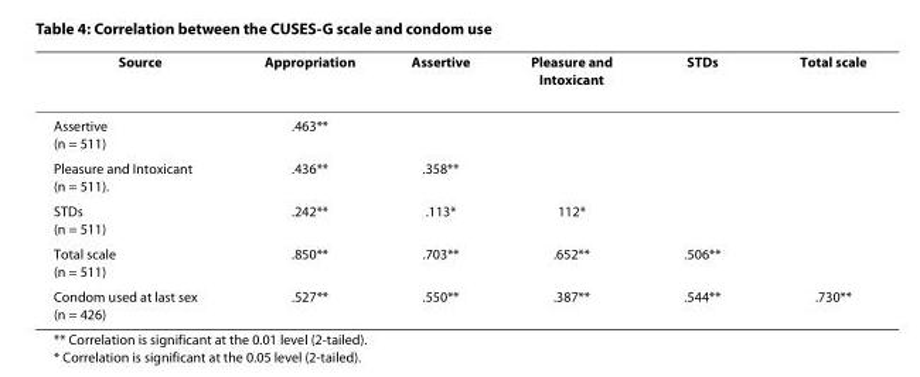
<table><thead><tr><td>Source</td><td>Appropriation</td><td>Assertive</td><td>Pleasure and Intoxicant</td><td>STDs</td><td>Total scale</td></tr></thead><tbody><tr><td>Assertive (n = 511)</td><td>.463**</td><td></td><td></td><td></td><td></td></tr><tr><td>Pleasure and Intoxicant (n = 511).</td><td>.436**</td><td>.358**</td><td></td><td></td><td></td></tr><tr><td>STDs (n = 511)</td><td>.242**</td><td>.113*</td><td>112*</td><td></td><td></td></tr><tr><td>Total scale (n = 511)</td><td>.850**</td><td>.703**</td><td>.652**</td><td>.506**</td><td></td></tr><tr><td>Condom used at last sex (n = 426)</td><td>.527**</td><td>.550**</td><td>.387**</td><td>.544**</td><td>.730**</td></tr></tbody></table>